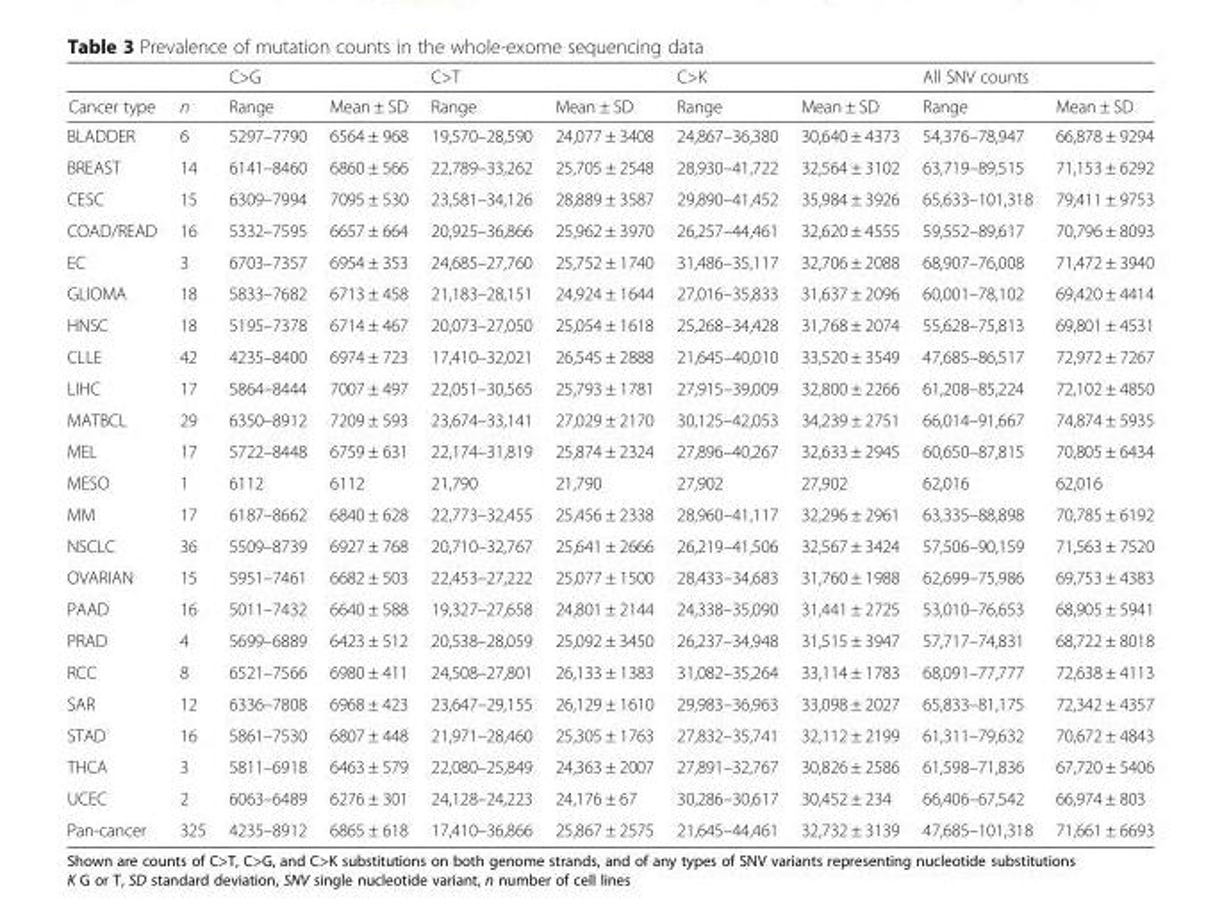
<table><thead><tr><td rowspan="2">Cancer type</td><td rowspan="2">n</td><td colspan="2">C&gt;G</td><td colspan="2">C&gt;T</td><td colspan="2">C&gt;K</td><td colspan="2">All SNV counts</td></tr><tr><td>Range</td><td>Mean ± SD</td><td>Range</td><td>Mean ± SD</td><td>Range</td><td>Mean ± SD</td><td>Range</td><td>Mean ± SD</td></tr></thead><tbody><tr><td>BLADDER</td><td>6</td><td>5297–7790</td><td>6564 ± 968</td><td>19,570–28,590</td><td>24,077 ± 3408</td><td>24,867–36,380</td><td>30,640 ± 4373</td><td>54,376–78,947</td><td>66,878 ± 9294</td></tr><tr><td>BREAST</td><td>14</td><td>6141–8460</td><td>6860 ± 566</td><td>22,789–33,262</td><td>25,705 ± 2548</td><td>28,930–41,722</td><td>32,564 ± 3102</td><td>63,719–89,515</td><td>71,153 ± 6292</td></tr><tr><td>CESC</td><td>15</td><td>6309–7994</td><td>7095 ± 530</td><td>23,581–34,126</td><td>28,889 ± 3587</td><td>29,890–41,452</td><td>35,984 ± 3926</td><td>65,633–101,318</td><td>79,411 ± 9753</td></tr><tr><td>COAD/READ</td><td>16</td><td>5332–7595</td><td>6657 ± 664</td><td>20,925–36,866</td><td>25,962 ± 3970</td><td>26,257–44,461</td><td>32,620 ± 4555</td><td>59,552–89,617</td><td>70,796 ± 8093</td></tr><tr><td>EC</td><td>3</td><td>6703–7357</td><td>6954 ± 353</td><td>24,685–27,760</td><td>25,752 ± 1740</td><td>31,486–35,117</td><td>32,706 ± 2088</td><td>68,907–76,008</td><td>71,472 ± 3940</td></tr><tr><td>GLIOMA</td><td>18</td><td>5833–7682</td><td>6713 ± 458</td><td>21,183–28,151</td><td>24,924 ± 1644</td><td>27,016–35,833</td><td>31,637 ± 2096</td><td>60,001–78,102</td><td>69,420 ± 4414</td></tr><tr><td>HNSC</td><td>18</td><td>5195–7378</td><td>6714 ± 467</td><td>20,073–27,050</td><td>25,054 ± 1618</td><td>25,268–34,428</td><td>31,768 ± 2074</td><td>55,628–75,813</td><td>69,801 ± 4531</td></tr><tr><td>CLLE</td><td>42</td><td>4235–8400</td><td>6974 ± 723</td><td>17,410–32,021</td><td>26,545 ± 2888</td><td>21,645–40,010</td><td>33,520 ± 3549</td><td>47,685–86,517</td><td>72,972 ± 7267</td></tr><tr><td>LIHC</td><td>17</td><td>5864–8444</td><td>7007 ± 497</td><td>22,051–30,565</td><td>25,793 ± 1781</td><td>27,915–39,009</td><td>32,800 ± 2266</td><td>61,208–85,224</td><td>72,102 ± 4850</td></tr><tr><td>MATBCL</td><td>29</td><td>6350–8912</td><td>7209 ± 593</td><td>23,674–33,141</td><td>27,029 ± 2170</td><td>30,125–42,053</td><td>34,239 ± 2751</td><td>66,014–91,667</td><td>74,874 ± 5935</td></tr><tr><td>MEL</td><td>17</td><td>5722–8448</td><td>6759 ± 631</td><td>22,174–31,819</td><td>25,874 ± 2324</td><td>27,896–40,267</td><td>32,633 ± 2945</td><td>60,650–87,815</td><td>70,805 ± 6434</td></tr><tr><td>MESO</td><td>1</td><td>6112</td><td>6112</td><td>21,790</td><td>21,790</td><td>27,902</td><td>27,902</td><td>62,016</td><td>62,016</td></tr><tr><td>MM</td><td>17</td><td>6187–8662</td><td>6840 ± 628</td><td>22,773–32,455</td><td>25,456 ± 2338</td><td>28,960–41,117</td><td>32,296 ± 2961</td><td>63,335–88,898</td><td>70,785 ± 6192</td></tr><tr><td>NSCLC</td><td>36</td><td>5509–8739</td><td>6927 ± 768</td><td>20,710–32,767</td><td>25,641 ± 2666</td><td>26,219–41,506</td><td>32,567 ± 3424</td><td>57,506–90,159</td><td>71,563 ± 7520</td></tr><tr><td>OVARIAN</td><td>15</td><td>5951–7461</td><td>6682 ± 503</td><td>22,453–27,222</td><td>25,077 ± 1500</td><td>28,433–34,683</td><td>31,760 ± 1988</td><td>62,699–75,986</td><td>69,753 ± 4383</td></tr><tr><td>PAAD</td><td>16</td><td>5011–7432</td><td>6640 ± 588</td><td>19,327–27,658</td><td>24,801 ± 2144</td><td>24,338–35,090</td><td>31,441 ± 2725</td><td>53,010–76,653</td><td>68,905 ± 5941</td></tr><tr><td>PRAD</td><td>4</td><td>5699–6889</td><td>6423 ± 512</td><td>20,538–28,059</td><td>25,092 ± 3450</td><td>26,237–34,948</td><td>31,515 ± 3947</td><td>57,717–74,831</td><td>68,722 ± 8018</td></tr><tr><td>RCC</td><td>8</td><td>6521–7566</td><td>6980 ± 411</td><td>24,508–27,801</td><td>26,133 ± 1383</td><td>31,082–35,264</td><td>33,114 ± 1783</td><td>68,091–77,777</td><td>72,638 ± 4113</td></tr><tr><td>SAR</td><td>12</td><td>6336–7808</td><td>6968 ± 423</td><td>23,647–29,155</td><td>26,129 ± 1610</td><td>29,983–36,963</td><td>33,098 ± 2027</td><td>65,833–81,175</td><td>72,342 ± 4357</td></tr><tr><td>STAD</td><td>16</td><td>5861–7530</td><td>6807 ± 448</td><td>21,971–28,460</td><td>25,305 ± 1763</td><td>27,832–35,741</td><td>32,112 ± 2199</td><td>61,311–79,632</td><td>70,672 ± 4843</td></tr><tr><td>THCA</td><td>3</td><td>5811–6918</td><td>6463 ± 579</td><td>22,080–25,849</td><td>24,363 ± 2007</td><td>27,891–32,767</td><td>30,826 ± 2586</td><td>61,598–71,836</td><td>67,720 ± 5406</td></tr><tr><td>UCEC</td><td>2</td><td>6063–6489</td><td>6276 ± 301</td><td>24,128–24,223</td><td>24,176 ± 67</td><td>30,286–30,617</td><td>30,452 ± 234</td><td>66,406–67,542</td><td>66,974 ± 803</td></tr><tr><td>Pan-cancer</td><td>325</td><td>4235–8912</td><td>6865 ± 618</td><td>17,410–36,866</td><td>25,867 ± 2575</td><td>21,645–44,461</td><td>32,732 ± 3139</td><td>47,685–101,318</td><td>71,661 ± 6693</td></tr></tbody></table>